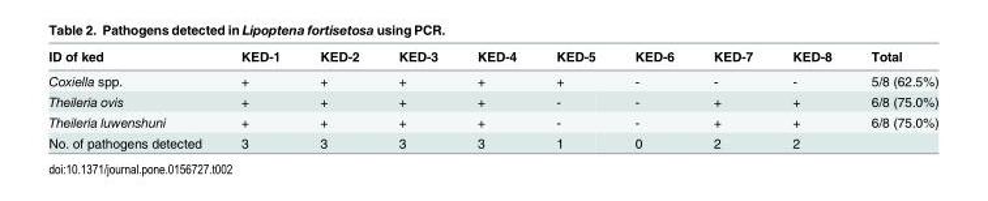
<table><thead><tr><td>ID of ked</td><td>KED-1</td><td>KED-2</td><td>KED-3</td><td>KED-4</td><td>KED-5</td><td>KED-6</td><td>KED-7</td><td>KED-8</td><td>Total</td></tr></thead><tbody><tr><td>Coxiella spp.</td><td>+</td><td>+</td><td>+</td><td>+</td><td>+</td><td>-</td><td>-</td><td>-</td><td>5/8 (62.5%)</td></tr><tr><td>Theileria ovis</td><td>+</td><td>+</td><td>+</td><td>+</td><td>-</td><td>-</td><td>+</td><td>+</td><td>6/8 (75.0%)</td></tr><tr><td>Theileria luwenshuni</td><td>+</td><td>+</td><td>+</td><td>+</td><td>-</td><td>-</td><td>+</td><td>+</td><td>6/8 (75.0%)</td></tr><tr><td>No. of pathogens detected</td><td>3</td><td>3</td><td>3</td><td>3</td><td>1</td><td>0</td><td>2</td><td>2</td><td></td></tr></tbody></table>